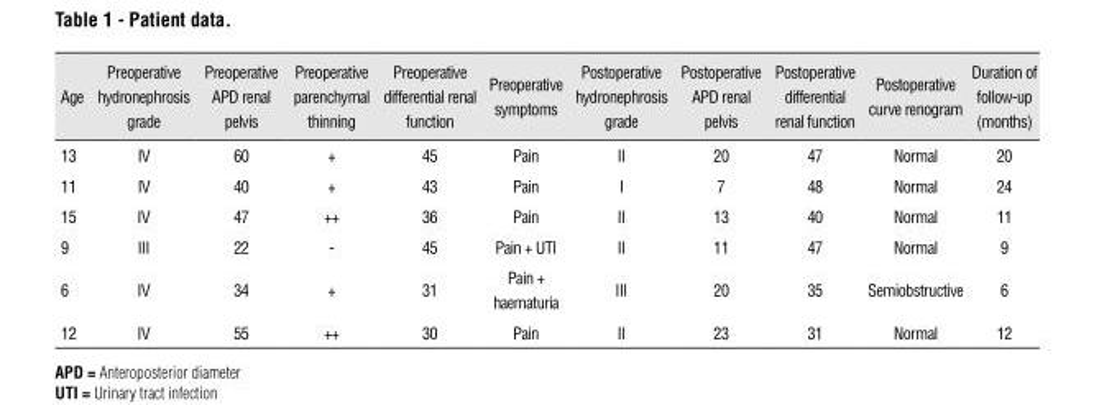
<table><thead><tr><td>Age</td><td>Preoperative hydronephrosis grade</td><td>Preoperative APD renal pelvis</td><td>Preoperative parenchymal thinning</td><td>Preoperative differential renal function</td><td>Preoperative symptoms</td><td>Postoperative hydronephrosis grade</td><td>Postoperative APD renal pelvis</td><td>Postoperative differential renal function</td><td>Postoperative curve renogram</td><td>Duration of follow-up (months)</td></tr></thead><tbody><tr><td>13</td><td>IV</td><td>60</td><td>+</td><td>45</td><td>Pain</td><td>II</td><td>20</td><td>47</td><td>Normal</td><td>20</td></tr><tr><td>11</td><td>IV</td><td>40</td><td>+</td><td>43</td><td>Pain</td><td>I</td><td>7</td><td>48</td><td>Normal</td><td>24</td></tr><tr><td>15</td><td>IV</td><td>47</td><td>++</td><td>36</td><td>Pain</td><td>II</td><td>13</td><td>40</td><td>Normal</td><td>11</td></tr><tr><td>9</td><td>III</td><td>22</td><td>-</td><td>45</td><td>Pain + UTI</td><td>II</td><td>11</td><td>47</td><td>Normal</td><td>9</td></tr><tr><td>6</td><td>IV</td><td>34</td><td>+</td><td>31</td><td>Pain + haematuria</td><td>III</td><td>20</td><td>35</td><td>Semiobstructive</td><td>6</td></tr><tr><td>12</td><td>IV</td><td>55</td><td>++</td><td>30</td><td>Pain</td><td>II</td><td>23</td><td>31</td><td>Normal</td><td>12</td></tr></tbody></table>